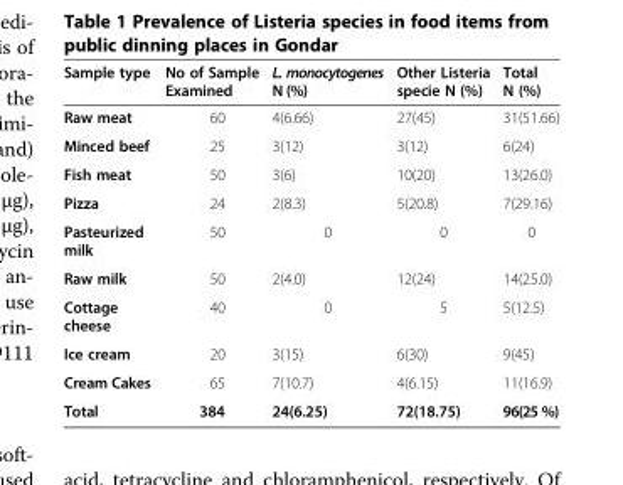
<table><thead><tr><td>Sample type</td><td>No of Sample Examined</td><td>L. monocytogenes N (%)</td><td>Other Listeria specie N (%)</td><td>Total N (%)</td></tr></thead><tbody><tr><td>Raw meat</td><td>60</td><td>4(6.66)</td><td>27(45)</td><td>31(51.66)</td></tr><tr><td>Minced beef</td><td>25</td><td>3(12)</td><td>3(12)</td><td>6(24)</td></tr><tr><td>Fish meat</td><td>50</td><td>3(6)</td><td>10(20)</td><td>13(26.0)</td></tr><tr><td>Pizza</td><td>24</td><td>2(8.3)</td><td>5(20.8)</td><td>7(29.16)</td></tr><tr><td>Pasteurized milk</td><td>50</td><td>0</td><td>0</td><td>0</td></tr><tr><td>Raw milk</td><td>50</td><td>2(4.0)</td><td>12(24)</td><td>14(25.0)</td></tr><tr><td>Cottage cheese</td><td>40</td><td>0</td><td>5</td><td>5(12.5)</td></tr><tr><td>Ice cream</td><td>20</td><td>3(15)</td><td>6(30)</td><td>9(45)</td></tr><tr><td>Cream Cakes</td><td>65</td><td>7(10.7)</td><td>4(6.15)</td><td>11(16.9)</td></tr><tr><td>Total</td><td>384</td><td>24(6.25)</td><td>72(18.75)</td><td>96(25 %)</td></tr></tbody></table>